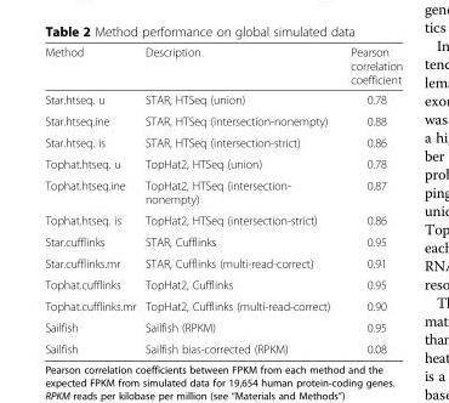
<table><thead><tr><td>Method</td><td>Description</td><td>Pearson correlation coefficient</td></tr></thead><tbody><tr><td>Star.htseq. u</td><td>STAR, HTSeq (union)</td><td>0.78</td></tr><tr><td>Star.htseq.ine</td><td>STAR, HTSeq (intersection-nonempty)</td><td>0.88</td></tr><tr><td>Star.htseq. is</td><td>STAR, HTSeq (intersection-strict)</td><td>0.86</td></tr><tr><td>Tophat.htseq. u</td><td>TopHat2, HTSeq (union)</td><td>0.78</td></tr><tr><td>Tophat.htseq.ine</td><td>TopHat2, HTSeq (intersection- nonempty)</td><td>0.87</td></tr><tr><td>Tophat.htseq. is</td><td>TopHat2, HTSeq (intersection-strict)</td><td>0.86</td></tr><tr><td>Star.cufflinks</td><td>STAR, Cufflinks</td><td>0.95</td></tr><tr><td>Star.cufflinks.mr</td><td>STAR, Cufflinks (multi-read-correct)</td><td>0.91</td></tr><tr><td>Tophat.cufflinks</td><td>TopHat2, Cufflinks</td><td>0.95</td></tr><tr><td>Tophat.cufflinks.mr</td><td>TopHat2, Cufflinks (multi-read-correct)</td><td>0.90</td></tr><tr><td>Sailfish</td><td>Sailfish (RPKM)</td><td>0.95</td></tr><tr><td>Sailfish</td><td>Sailfish bias-corrected (RPKM)</td><td>0.08</td></tr></tbody></table>